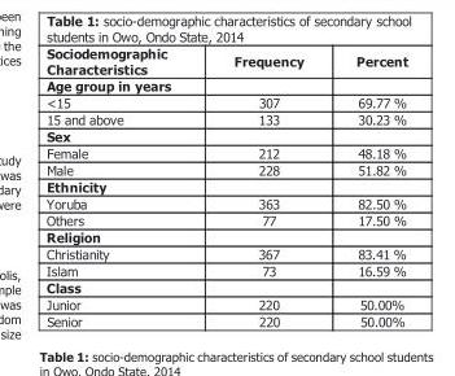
<table><thead><tr><td>Sociodemographic Characteristics</td><td>Frequency</td><td>Percent</td></tr></thead><tbody><tr><td colspan="3">Age group in years</td></tr><tr><td>&lt;15</td><td>307</td><td>69.77 %</td></tr><tr><td>15 and above</td><td>133</td><td>30.23 %</td></tr><tr><td colspan="3">Sex</td></tr><tr><td>Female</td><td>212</td><td>48.18 %</td></tr><tr><td>Male</td><td>228</td><td>51.82 %</td></tr><tr><td colspan="3">Ethnicity</td></tr><tr><td>Yoruba</td><td>363</td><td>82.50 %</td></tr><tr><td>Others</td><td>77</td><td>17.50 %</td></tr><tr><td colspan="3">Religion</td></tr><tr><td>Christianity</td><td>367</td><td>83.41 %</td></tr><tr><td>Islam</td><td>73</td><td>16.59 %</td></tr><tr><td colspan="3">Class</td></tr><tr><td>Junior</td><td>220</td><td>50.00%</td></tr><tr><td>Senior</td><td>220</td><td>50.00%</td></tr></tbody></table>